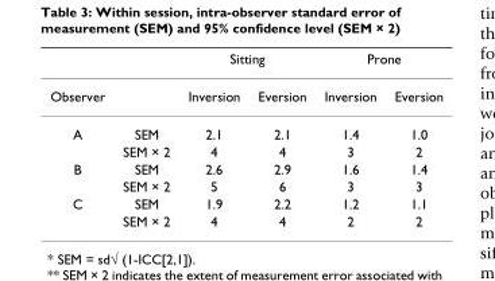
<table><thead><tr><td rowspan="2">Observer</td><td rowspan="2"></td><td colspan="2">Sitting</td><td colspan="2">Prone</td></tr><tr><td>Inversion</td><td>Eversion</td><td>Inversion</td><td>Eversion</td></tr></thead><tbody><tr><td rowspan="2">A</td><td>SEM</td><td>2.1</td><td>2.1</td><td>1.4</td><td>1.0</td></tr><tr><td>SEM × 2</td><td>4</td><td>4</td><td>3</td><td>2</td></tr><tr><td rowspan="2">B</td><td>SEM</td><td>2.6</td><td>2.9</td><td>1.6</td><td>1.4</td></tr><tr><td>SEM × 2</td><td>5</td><td>6</td><td>3</td><td>3</td></tr><tr><td rowspan="2">C</td><td>SEM</td><td>1.9</td><td>2.2</td><td>1.2</td><td>1.1</td></tr><tr><td>SEM × 2</td><td>4</td><td>4</td><td>2</td><td>2</td></tr></tbody></table>